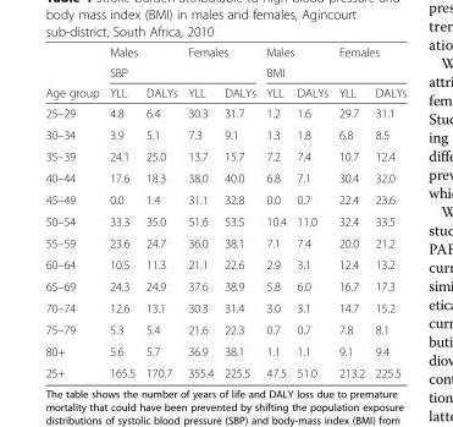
<table><thead><tr><td rowspan="3">Age group</td><td colspan="2">Males</td><td colspan="2">Females</td><td colspan="2">Males</td><td colspan="2">Females</td></tr><tr><td colspan="4">SBP</td><td colspan="4">BMI</td></tr><tr><td>YLL</td><td>DALYs</td><td>YLL</td><td>DALYs</td><td>YLL</td><td>DALYs</td><td>YLL</td><td>DALYs</td></tr></thead><tbody><tr><td>25–29</td><td>4.8</td><td>6.4</td><td>30.3</td><td>31.7</td><td>1.2</td><td>1.6</td><td>29.7</td><td>31.1</td></tr><tr><td>30–34</td><td>3.9</td><td>5.1</td><td>7.3</td><td>9.1</td><td>1.3</td><td>1.8</td><td>6.8</td><td>8.5</td></tr><tr><td>35–39</td><td>24.1</td><td>25.0</td><td>13.7</td><td>15.7</td><td>7.2</td><td>7.4</td><td>10.7</td><td>12.4</td></tr><tr><td>40–44</td><td>17.6</td><td>18.3</td><td>38.0</td><td>40.0</td><td>6.8</td><td>7.1</td><td>30.4</td><td>32.0</td></tr><tr><td>45–49</td><td>0.0</td><td>1.4</td><td>31.1</td><td>32.8</td><td>0.0</td><td>0.7</td><td>22.4</td><td>23.6</td></tr><tr><td>50–54</td><td>33.3</td><td>35.0</td><td>51.6</td><td>53.5</td><td>10.4</td><td>11.0</td><td>32.4</td><td>33.5</td></tr><tr><td>55–59</td><td>23.6</td><td>24.7</td><td>36.0</td><td>38.1</td><td>7.1</td><td>7.4</td><td>20.0</td><td>21.2</td></tr><tr><td>60–64</td><td>10.5</td><td>11.3</td><td>21.1</td><td>22.6</td><td>2.9</td><td>3.1</td><td>12.4</td><td>13.2</td></tr><tr><td>65–69</td><td>24.3</td><td>24.9</td><td>37.6</td><td>38.9</td><td>5.8</td><td>6.0</td><td>16.7</td><td>17.3</td></tr><tr><td>70–74</td><td>12.6</td><td>13.1</td><td>30.3</td><td>31.4</td><td>3.0</td><td>3.1</td><td>14.7</td><td>15.2</td></tr><tr><td>75–79</td><td>5.3</td><td>5.4</td><td>21.6</td><td>22.3</td><td>0.7</td><td>0.7</td><td>7.8</td><td>8.1</td></tr><tr><td>80+</td><td>5.6</td><td>5.7</td><td>36.9</td><td>38.1</td><td>1.1</td><td>1.1</td><td>9.1</td><td>9.4</td></tr><tr><td>25+</td><td>165.5</td><td>170.7</td><td>355.4</td><td>225.5</td><td>47.5</td><td>51.0</td><td>213.2</td><td>225.5</td></tr></tbody></table>